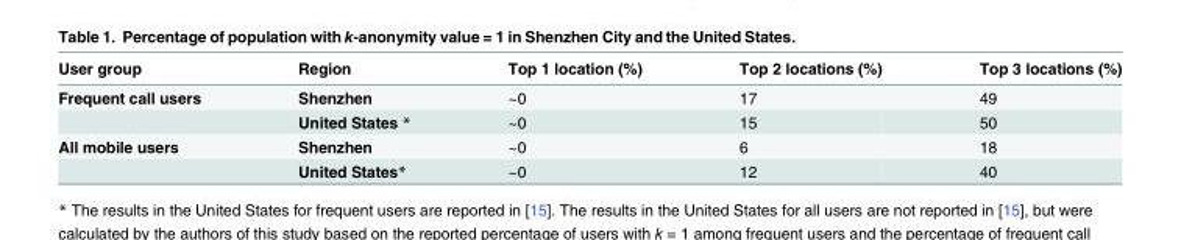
<table><thead><tr><td>User group</td><td>Region</td><td>Top 1 location (%)</td><td>Top 2 locations (%)</td><td>Top 3 locations (%)</td></tr></thead><tbody><tr><td rowspan="2">Frequent call users</td><td>Shenzhen</td><td>~0</td><td>17</td><td>49</td></tr><tr><td>United States *</td><td>~0</td><td>15</td><td>50</td></tr><tr><td rowspan="2">All mobile users</td><td>Shenzhen</td><td>~0</td><td>6</td><td>18</td></tr><tr><td>United States*</td><td>~0</td><td>12</td><td>40</td></tr></tbody></table>